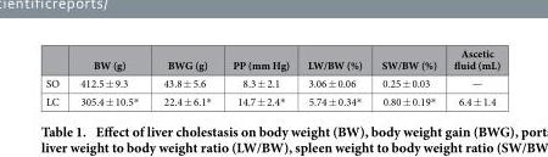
<table><thead><tr><td></td><td>BW (g)</td><td>BWG (g)</td><td>PP (mm Hg)</td><td>LW/BW (%)</td><td>SW/BW (%)</td><td>Ascetic fluid (mL)</td></tr></thead><tbody><tr><td>SO</td><td>412.5 ± 9.3</td><td>43.8 ± 5.6</td><td>8.3 ± 2.1</td><td>3.06 ± 0.06</td><td>0.25 ± 0.03</td><td>—</td></tr><tr><td>LC</td><td>305.4 ± 10.5*</td><td>22.4 ± 6.1*</td><td>14.7 ± 2.4*</td><td>5.74 ± 0.34*</td><td>0.80 ± 0.19*</td><td>6.4 ± 1.4</td></tr></tbody></table>